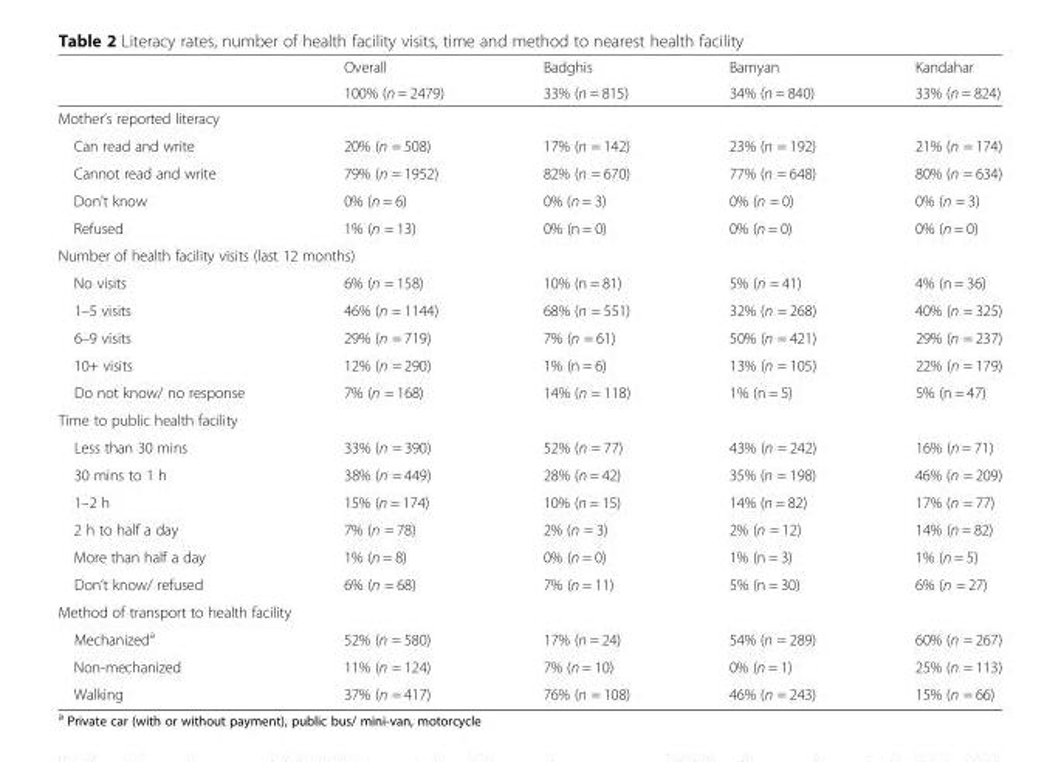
<table><thead><tr><td rowspan="2"></td><td rowspan="2">Overall 100% (n = 2479)</td><td rowspan="2">Badghis 33% (n = 815)</td><td rowspan="2">Bamyan 34% (n = 840)</td><td rowspan="2">Kandahar 33% (n = 824)</td></tr><tr></tr></thead><tbody><tr><td colspan="5">Mother’s reported literacy</td></tr><tr><td>Can read and write</td><td>20% (n = 508)</td><td>17% (n = 142)</td><td>23% (n = 192)</td><td>21% (n = 174)</td></tr><tr><td>Cannot read and write</td><td>79% (n = 1952)</td><td>82% (n = 670)</td><td>77% (n = 648)</td><td>80% (n = 634)</td></tr><tr><td>Don’t know</td><td>0% (n = 6)</td><td>0% (n = 3)</td><td>0% (n = 0)</td><td>0% (n = 3)</td></tr><tr><td>Refused</td><td>1% (n = 13)</td><td>0% (n = 0)</td><td>0% (n = 0)</td><td>0% (n = 0)</td></tr><tr><td colspan="5">Number of health facility visits (last 12 months)</td></tr><tr><td>No visits</td><td>6% (n = 158)</td><td>10% (n = 81)</td><td>5% (n = 41)</td><td>4% (n = 36)</td></tr><tr><td>1–5 visits</td><td>46% (n = 1144)</td><td>68% (n = 551)</td><td>32% (n = 268)</td><td>40% (n = 325)</td></tr><tr><td>6–9 visits</td><td>29% (n = 719)</td><td>7% (n = 61)</td><td>50% (n = 421)</td><td>29% (n = 237)</td></tr><tr><td>10+ visits</td><td>12% (n = 290)</td><td>1% (n = 6)</td><td>13% (n = 105)</td><td>22% (n = 179)</td></tr><tr><td>Do not know/ no response</td><td>7% (n = 168)</td><td>14% (n = 118)</td><td>1% (n = 5)</td><td>5% (n = 47)</td></tr><tr><td colspan="5">Time to public health facility</td></tr><tr><td>Less than 30 mins</td><td>33% (n = 390)</td><td>52% (n = 77)</td><td>43% (n = 242)</td><td>16% (n = 71)</td></tr><tr><td>30 mins to 1 h</td><td>38% (n = 449)</td><td>28% (n = 42)</td><td>35% (n = 198)</td><td>46% (n = 209)</td></tr><tr><td>1–2 h</td><td>15% (n = 174)</td><td>10% (n = 15)</td><td>14% (n = 82)</td><td>17% (n = 77)</td></tr><tr><td>2 h to half a day</td><td>7% (n = 78)</td><td>2% (n = 3)</td><td>2% (n = 12)</td><td>14% (n = 82)</td></tr><tr><td>More than half a day</td><td>1% (n = 8)</td><td>0% (n = 0)</td><td>1% (n = 3)</td><td>1% (n = 5)</td></tr><tr><td>Don’t know/ refused</td><td>6% (n = 68)</td><td>7% (n = 11)</td><td>5% (n = 30)</td><td>6% (n = 27)</td></tr><tr><td colspan="5">Method of transport to health facility</td></tr><tr><td>Mechanized<sup>a</sup></td><td>52% (n = 580)</td><td>17% (n = 24)</td><td>54% (n = 289)</td><td>60% (n = 267)</td></tr><tr><td>Non-mechanized</td><td>11% (n = 124)</td><td>7% (n = 10)</td><td>0% (n = 1)</td><td>25% (n = 113)</td></tr><tr><td>Walking</td><td>37% (n = 417)</td><td>76% (n = 108)</td><td>46% (n = 243)</td><td>15% (n = 66)</td></tr></tbody></table>